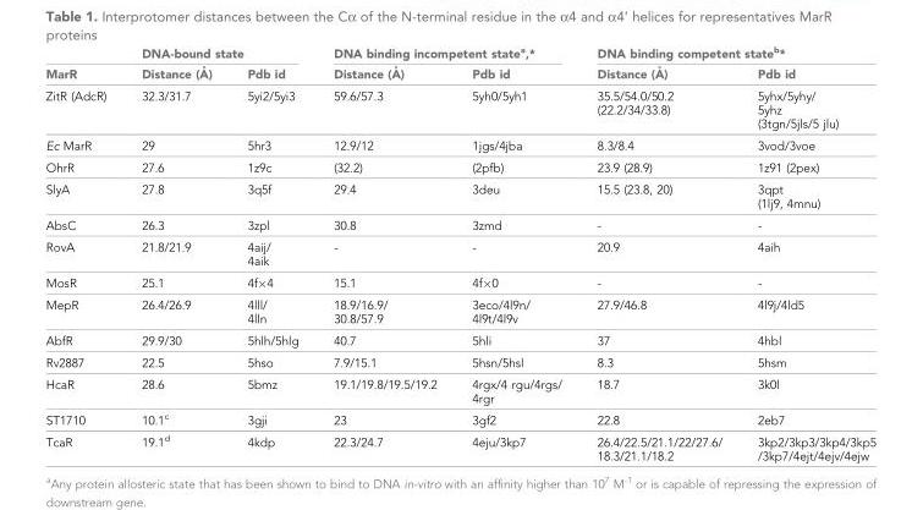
<table><thead><tr><td rowspan="2">MarR</td><td colspan="2">DNA-bound state</td><td colspan="2">DNA binding incompetent state<sup>a</sup>,*</td><td colspan="2">DNA binding competent state<sup>b</sup>*</td></tr><tr><td>Distance (A˚ )</td><td>Pdb id</td><td>Distance (A˚ )</td><td>Pdb id</td><td>Distance (A˚ )</td><td>Pdb id</td></tr></thead><tbody><tr><td>ZitR (AdcR)</td><td>32.3/31.7</td><td>5yi2/5yi3</td><td>59.6/57.3</td><td>5yh0/5yh1</td><td>35.5/54.0/50.2 (22.2/34/33.8)</td><td>5yhx/5yhy/ 5yhz (3tgn/5jls/5 jlu)</td></tr><tr><td>Ec MarR</td><td>29</td><td>5hr3</td><td>12.9/12</td><td>1jgs/4jba</td><td>8.3/8.4</td><td>3vod/3voe</td></tr><tr><td>OhrR</td><td>27.6</td><td>1z9c</td><td>(32.2)</td><td>(2pfb)</td><td>23.9 (28.9)</td><td>1z91 (2pex)</td></tr><tr><td>SlyA</td><td>27.8</td><td>3q5f</td><td>29.4</td><td>3deu</td><td>15.5 (23.8, 20)</td><td>3qpt (1lj9, 4mnu)</td></tr><tr><td>AbsC</td><td>26.3</td><td>3zpl</td><td>30.8</td><td>3zmd</td><td>-</td><td>-</td></tr><tr><td>RovA</td><td>21.8/21.9</td><td>4aij/ 4aik</td><td>-</td><td>-</td><td>20.9</td><td>4aih</td></tr><tr><td>MosR</td><td>25.1</td><td>4f×4</td><td>15.1</td><td>4f×0</td><td>-</td><td>-</td></tr><tr><td>MepR</td><td>26.4/26.9</td><td>4lll/ 4lln</td><td>18.9/16.9/ 30.8/57.9</td><td>3eco/4l9n/ 4l9t/4l9v</td><td>27.9/46.8</td><td>4l9j/4ld5</td></tr><tr><td>AbfR</td><td>29.9/30</td><td>5hlh/5hlg</td><td>40.7</td><td>5hli</td><td>37</td><td>4hbl</td></tr><tr><td>Rv2887</td><td>22.5</td><td>5hso</td><td>7.9/15.1</td><td>5hsn/5hsl</td><td>8.3</td><td>5hsm</td></tr><tr><td>HcaR</td><td>28.6</td><td>5bmz</td><td>19.1/19.8/19.5/19.2</td><td>4rgx/4 rgu/4rgs/ 4rgr</td><td>18.7</td><td>3k0l</td></tr><tr><td>ST1710</td><td>10.1<sup>c</sup></td><td>3gji</td><td>23</td><td>3gf2</td><td>22.8</td><td>2eb7</td></tr><tr><td>TcaR</td><td>19.1<sup>d</sup></td><td>4kdp</td><td>22.3/24.7</td><td>4eju/3kp7</td><td>26.4/22.5/21.1/22/27.6/ 18.3/21.1/18.2</td><td>3kp2/3kp3/3kp4/3kp5 /3kp7/4ejt/4ejv/4ejw</td></tr></tbody></table>